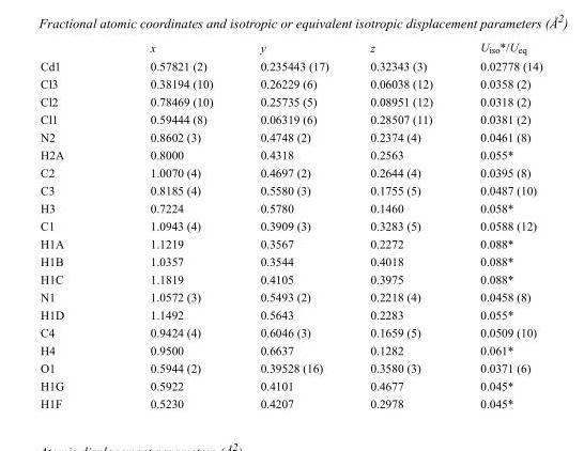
<table><thead><tr><td></td><td>x</td><td>y</td><td>z</td><td>U<sub>iso</sub>*/U<sub>eq</sub></td></tr></thead><tbody><tr><td>Cd1</td><td>0.57821 (2)</td><td>0.235443 (17)</td><td>0.32343 (3)</td><td>0.02778 (14)</td></tr><tr><td>Cl3</td><td>0.38194 (10)</td><td>0.26229 (6)</td><td>0.06038 (12)</td><td>0.0358 (2)</td></tr><tr><td>Cl2</td><td>0.78469 (10)</td><td>0.25735 (5)</td><td>0.08951 (12)</td><td>0.0318 (2)</td></tr><tr><td>Cl1</td><td>0.59444 (8)</td><td>0.06319 (6)</td><td>0.28507 (11)</td><td>0.0381 (2)</td></tr><tr><td>N2</td><td>0.8602 (3)</td><td>0.4748 (2)</td><td>0.2374 (4)</td><td>0.0461 (8)</td></tr><tr><td>H2A</td><td>0.8000</td><td>0.4318</td><td>0.2563</td><td>0.055*</td></tr><tr><td>C2</td><td>1.0070 (4)</td><td>0.4697 (2)</td><td>0.2644 (4)</td><td>0.0395 (8)</td></tr><tr><td>C3</td><td>0.8185 (4)</td><td>0.5580 (3)</td><td>0.1755 (5)</td><td>0.0487 (10)</td></tr><tr><td>H3</td><td>0.7224</td><td>0.5780</td><td>0.1460</td><td>0.058*</td></tr><tr><td>C1</td><td>1.0943 (4)</td><td>0.3909 (3)</td><td>0.3283 (5)</td><td>0.0588 (12)</td></tr><tr><td>H1A</td><td>1.1219</td><td>0.3567</td><td>0.2272</td><td>0.088*</td></tr><tr><td>H1B</td><td>1.0357</td><td>0.3544</td><td>0.4018</td><td>0.088*</td></tr><tr><td>H1C</td><td>1.1819</td><td>0.4105</td><td>0.3975</td><td>0.088*</td></tr><tr><td>N1</td><td>1.0572 (3)</td><td>0.5493 (2)</td><td>0.2218 (4)</td><td>0.0458 (8)</td></tr><tr><td>H1D</td><td>1.1492</td><td>0.5643</td><td>0.2283</td><td>0.055*</td></tr><tr><td>C4</td><td>0.9424 (4)</td><td>0.6046 (3)</td><td>0.1659 (5)</td><td>0.0509 (10)</td></tr><tr><td>H4</td><td>0.9500</td><td>0.6637</td><td>0.1282</td><td>0.061*</td></tr><tr><td>O1</td><td>0.5944 (2)</td><td>0.39528 (16)</td><td>0.3580 (3)</td><td>0.0371 (6)</td></tr><tr><td>H1G</td><td>0.5922</td><td>0.4101</td><td>0.4677</td><td>0.045*</td></tr><tr><td>H1F</td><td>0.5230</td><td>0.4207</td><td>0.2978</td><td>0.045*</td></tr></tbody></table>